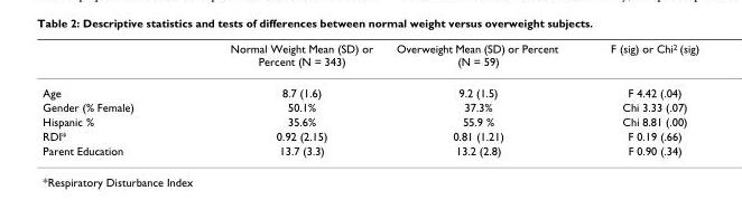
<table><thead><tr><td></td><td>Normal Weight Mean (SD) or Percent (N = 343)</td><td>Overweight Mean (SD) or Percent (N = 59)</td><td>F (sig) or Chi<sup>2</sup> (sig)</td></tr></thead><tbody><tr><td>Age</td><td>8.7 (1.6)</td><td>9.2 (1.5)</td><td>F 4.42 (.04)</td></tr><tr><td>Gender (% Female)</td><td>50.1%</td><td>37.3%</td><td>Chi 3.33 (.07)</td></tr><tr><td>Hispanic %</td><td>35.6%</td><td>55.9 %</td><td>Chi 8.81 (.00)</td></tr><tr><td>RDI*</td><td>0.92 (2.15)</td><td>0.81 (1.21)</td><td>F 0.19 (.66)</td></tr><tr><td>Parent Education</td><td>13.7 (3.3)</td><td>13.2 (2.8)</td><td>F 0.90 (.34)</td></tr></tbody></table>